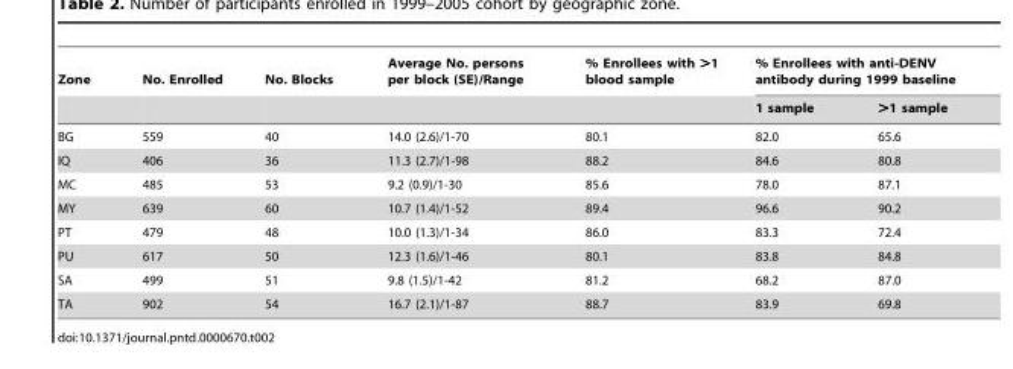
<table><thead><tr><td rowspan="2">Zone</td><td rowspan="2">No. Enrolled</td><td rowspan="2">No. Blocks</td><td rowspan="2">Average No. persons per block (SE)/Range</td><td rowspan="2">% Enrollees with &gt;1 blood sample</td><td colspan="2">% Enrollees with anti-DENV antibody during 1999 baseline</td></tr><tr><td>1 sample</td><td>&gt;1 sample</td></tr></thead><tbody><tr><td>BG</td><td>559</td><td>40</td><td>14.0 (2.6)/1-70</td><td>80.1</td><td>82.0</td><td>65.6</td></tr><tr><td>IQ</td><td>406</td><td>36</td><td>11.3 (2.7)/1-98</td><td>88.2</td><td>84.6</td><td>80.8</td></tr><tr><td>MC</td><td>485</td><td>53</td><td>9.2 (0.9)/1-30</td><td>85.6</td><td>78.0</td><td>87.1</td></tr><tr><td>MY</td><td>639</td><td>60</td><td>10.7 (1.4)/1-52</td><td>89.4</td><td>96.6</td><td>90.2</td></tr><tr><td>PT</td><td>479</td><td>48</td><td>10.0 (1.3)/1-34</td><td>86.0</td><td>83.3</td><td>72.4</td></tr><tr><td>PU</td><td>617</td><td>50</td><td>12.3 (1.6)/1-46</td><td>80.1</td><td>83.8</td><td>84.8</td></tr><tr><td>SA</td><td>499</td><td>51</td><td>9.8 (1.5)/1-42</td><td>81.2</td><td>68.2</td><td>87.0</td></tr><tr><td>TA</td><td>902</td><td>54</td><td>16.7 (2.1)/1-87</td><td>88.7</td><td>83.9</td><td>69.8</td></tr></tbody></table>